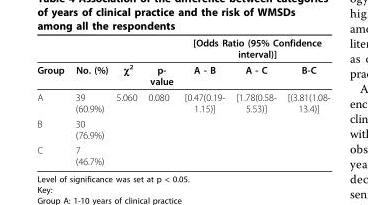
<table><thead><tr><td rowspan="2">Group</td><td rowspan="2">No. (%)</td><td rowspan="2">χ<sup>2</sup></td><td rowspan="2">p- value</td><td colspan="3">[Odds Ratio (95% Confidence interval)]</td></tr><tr><td>A - B</td><td>A - C</td><td>B-C</td></tr></thead><tbody><tr><td>A</td><td>39 (60.9%)</td><td>5.060</td><td>0.080</td><td>[0.47(0.19- 1.15)]</td><td>[1.78(0.58- 5.53)]</td><td>[(3.81(1.08- 13.4)]</td></tr><tr><td>B</td><td>30 (76.9%)</td><td></td><td></td><td></td><td></td><td></td></tr><tr><td>C</td><td>7 (46.7%)</td><td></td><td></td><td></td><td></td><td></td></tr></tbody></table>